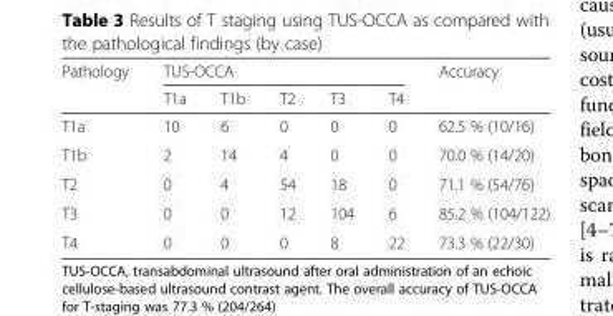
<table><thead><tr><td rowspan="2">Pathology</td><td colspan="5">TUS-OCCA</td><td rowspan="2">Accuracy</td></tr><tr><td>T1a</td><td>T1b</td><td>T2</td><td>T3</td><td>T4</td></tr></thead><tbody><tr><td>T1a</td><td>10</td><td>6</td><td>0</td><td>0</td><td>0</td><td>62.5 % (10/16)</td></tr><tr><td>T1b</td><td>2</td><td>14</td><td>4</td><td>0</td><td>0</td><td>70.0 % (14/20)</td></tr><tr><td>T2</td><td>0</td><td>4</td><td>54</td><td>18</td><td>0</td><td>71.1 % (54/76)</td></tr><tr><td>T3</td><td>0</td><td>0</td><td>12</td><td>104</td><td>6</td><td>85.2 % (104/122)</td></tr><tr><td>T4</td><td>0</td><td>0</td><td>0</td><td>8</td><td>22</td><td>73.3 % (22/30)</td></tr></tbody></table>